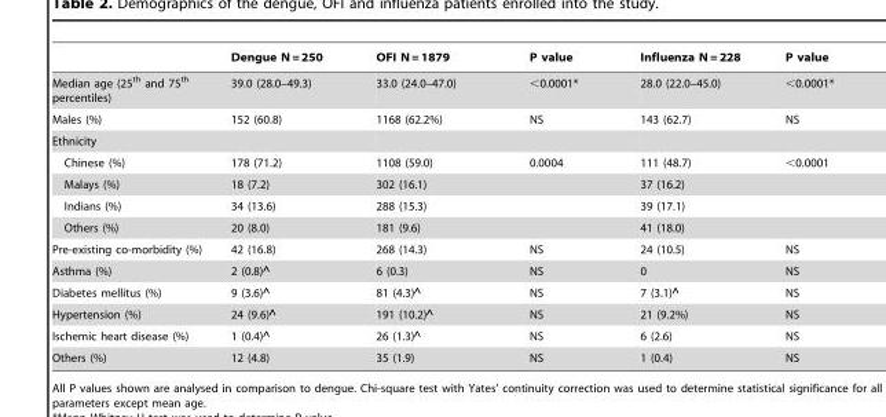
<table><thead><tr><td></td><td>Dengue N = 250</td><td>OFI N = 1879</td><td>P value</td><td>Influenza N = 228</td><td>P value</td></tr></thead><tbody><tr><td>Median age (25<sup>th</sup> and 75<sup>th</sup> percentiles)</td><td>39.0 (28.0–49.3)</td><td>33.0 (24.0–47.0)</td><td>&lt;0.0001*</td><td>28.0 (22.0–45.0)</td><td>&lt;0.0001*</td></tr><tr><td>Males (%)</td><td>152 (60.8)</td><td>1168 (62.2%)</td><td>NS</td><td>143 (62.7)</td><td>NS</td></tr><tr><td colspan="6">Ethnicity</td></tr><tr><td>Chinese (%)</td><td>178 (71.2)</td><td>1108 (59.0)</td><td>0.0004</td><td>111 (48.7)</td><td>&lt;0.0001</td></tr><tr><td>Malays (%)</td><td>18 (7.2)</td><td>302 (16.1)</td><td></td><td>37 (16.2)</td><td></td></tr><tr><td>Indians (%)</td><td>34 (13.6)</td><td>288 (15.3)</td><td></td><td>39 (17.1)</td><td></td></tr><tr><td>Others (%)</td><td>20 (8.0)</td><td>181 (9.6)</td><td></td><td>41 (18.0)</td><td></td></tr><tr><td>Pre-existing co-morbidity (%)</td><td>42 (16.8)</td><td>268 (14.3)</td><td>NS</td><td>24 (10.5)</td><td>NS</td></tr><tr><td>Asthma (%)</td><td>2 (0.8)‘</td><td>6 (0.3)</td><td>NS</td><td>0</td><td>NS</td></tr><tr><td>Diabetes mellitus (%)</td><td>9 (3.6)‘</td><td>81 (4.3)‘</td><td>NS</td><td>7 (3.1)‘</td><td>NS</td></tr><tr><td>Hypertension (%)</td><td>24 (9.6)‘</td><td>191 (10.2)‘</td><td>NS</td><td>21 (9.2%)</td><td>NS</td></tr><tr><td>Ischemic heart disease (%)</td><td>1 (0.4)‘</td><td>26 (1.3)‘</td><td>NS</td><td>6 (2.6)</td><td>NS</td></tr><tr><td>Others (%)</td><td>12 (4.8)</td><td>35 (1.9)</td><td>NS</td><td>1 (0.4)</td><td>NS</td></tr></tbody></table>